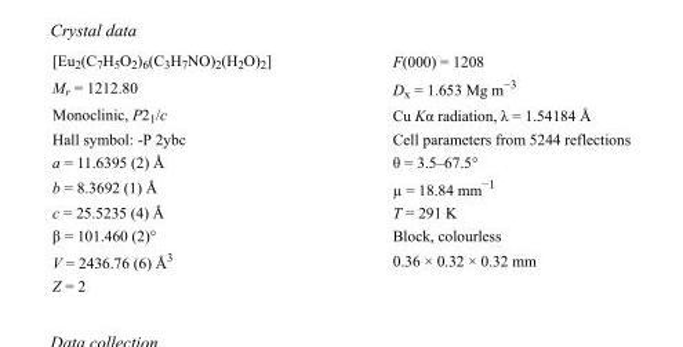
<table><tbody><tr><td>[Eu<sub>2</sub>(C<sub>7</sub>H<sub>5</sub>O<sub>2</sub>)<sub>6</sub>(C<sub>3</sub>H<sub>7</sub>NO)<sub>2</sub>(H<sub>2</sub>O)<sub>2</sub>]</td><td>F(000) = 1208</td></tr><tr><td>M<sub>r</sub> = 1212.80</td><td>D<sub>x</sub> = 1.653 Mg m<sup>−3</sup></td></tr><tr><td>Monoclinic, P2<sub>1</sub>/c</td><td>Cu Kα radiation, λ = 1.54184 Å</td></tr><tr><td>Hall symbol: -P 2ybc</td><td>Cell parameters from 5244 reflections</td></tr><tr><td>a = 11.6395 (2) Å</td><td>θ = 3.5–67.5°</td></tr><tr><td>b = 8.3692 (1) Å</td><td>µ = 18.84 mm<sup>−1</sup></td></tr><tr><td>c = 25.5235 (4) Å</td><td>T = 291 K</td></tr><tr><td>β = 101.460 (2)°</td><td>Block, colourless</td></tr><tr><td>V = 2436.76 (6) Å<sup>3</sup></td><td>0.36 × 0.32 × 0.32 mm</td></tr><tr><td>Z = 2</td><td></td></tr></tbody></table>